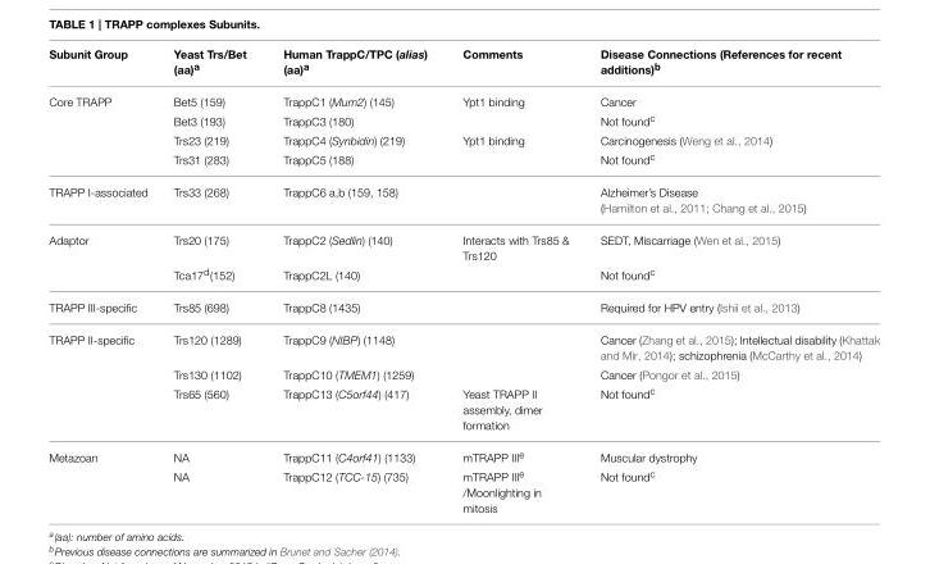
<table><thead><tr><td>Subunit Group</td><td>Yeast Trs/Bet (aa)<sup>a</sup></td><td>Human TrappC/TPC (alias) (aa)<sup>a</sup></td><td>Comments</td><td>Disease Connections (References for recent additions)<sup>b</sup></td></tr></thead><tbody><tr><td rowspan="4">Core TRAPP</td><td>Bet5 (159)</td><td>TrappC1 (Mum2) (145)</td><td>Ypt1 binding</td><td>Cancer</td></tr><tr><td>Bet3 (193)</td><td>TrappC3 (180)</td><td></td><td>Not found<sup>c</sup></td></tr><tr><td>Trs23 (219)</td><td>TrappC4 (Synbidin) (219)</td><td>Ypt1 binding</td><td>Carcinogenesis (Weng et al., 2014)</td></tr><tr><td>Trs31 (283)</td><td>TrappC5 (188)</td><td></td><td>Not found<sup>c</sup></td></tr><tr><td>TRAPP I-associated</td><td>Trs33 (268)</td><td>TrappC6 a,b (159, 158)</td><td></td><td>Alzheimer’s Disease (Hamilton et al., 2011; Chang et al., 2015)</td></tr><tr><td rowspan="2">Adaptor</td><td>Trs20 (175)</td><td>TrappC2 (Sedlin) (140)</td><td>Interacts with Trs85 &amp; Trs120</td><td>SEDT, Miscarriage (Wen et al., 2015)</td></tr><tr><td>Tca17<sup>d</sup>(152)</td><td>TrappC2L (140)</td><td></td><td>Not found<sup>c</sup></td></tr><tr><td>TRAPP III-specific</td><td>Trs85 (698)</td><td>TrappC8 (1435)</td><td></td><td>Required for HPV entry (Ishii et al., 2013)</td></tr><tr><td rowspan="3">TRAPP II-specific</td><td>Trs120 (1289)</td><td>TrappC9 (NIBP) (1148)</td><td></td><td>Cancer (Zhang et al., 2015); Intellectual disability (Khattak and Mir, 2014); schizophrenia (McCarthy et al., 2014)</td></tr><tr><td>Trs130 (1102)</td><td>TrappC10 (TMEM1) (1259)</td><td></td><td>Cancer (Pongor et al., 2015)</td></tr><tr><td>Trs65 (560)</td><td>TrappC13 (C5orf44) (417)</td><td>Yeast TRAPP II assembly, dimer formation</td><td>Not found<sup>c</sup></td></tr><tr><td rowspan="2">Metazoan</td><td>NA</td><td>TrappC11 (C4orf41) (1133)</td><td>mTRAPP III<sup>e</sup></td><td>Muscular dystrophy</td></tr><tr><td>NA</td><td>TrappC12 (TCC-15) (735)</td><td>mTRAPP III<sup>e</sup> /Moonlighting in mitosis</td><td>Not found<sup>c</sup></td></tr></tbody></table>